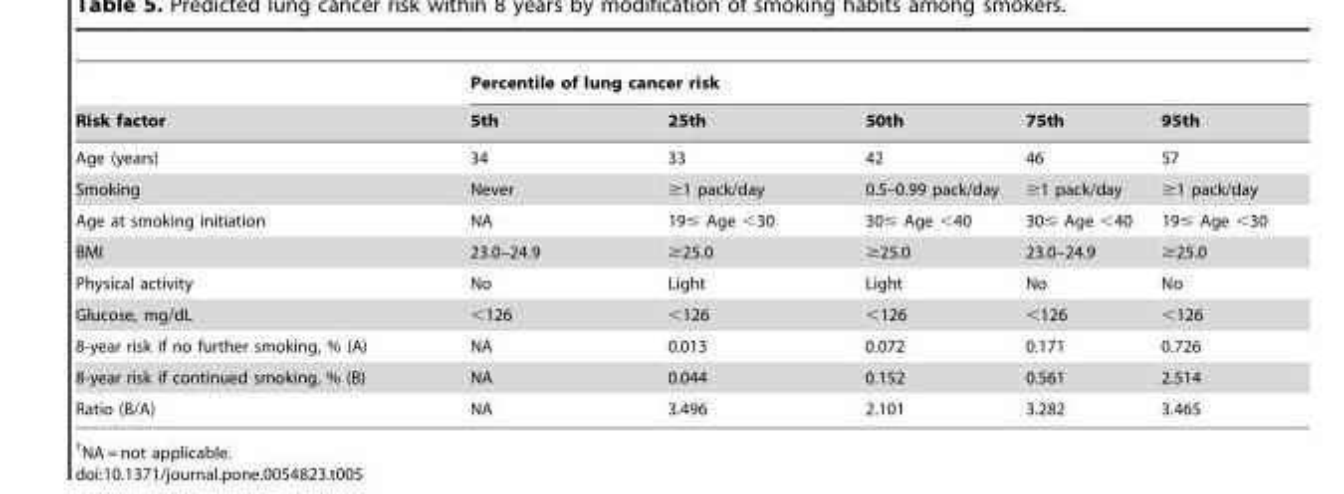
<table><thead><tr><td rowspan="2">Risk factor</td><td colspan="5">Percentile of lung cancer risk</td></tr><tr><td>5th</td><td>25th</td><td>50th</td><td>75th</td><td>95th</td></tr></thead><tbody><tr><td>Age (years)</td><td>34</td><td>33</td><td>42</td><td>46</td><td>57</td></tr><tr><td>Smoking</td><td>Never</td><td>≥1 pack/day</td><td>0.5–0.99 pack/day</td><td>≥1 pack/day</td><td>≥1 pack/day</td></tr><tr><td>Age at smoking initiation</td><td>NA</td><td>19≤ Age &lt;30</td><td>30≤ Age &lt;40</td><td>30≤ Age &lt;40</td><td>19≤ Age &lt;30</td></tr><tr><td>BMI</td><td>23.0–24.9</td><td>≥25.0</td><td>≥25.0</td><td>23.0–24.9</td><td>≥25.0</td></tr><tr><td>Physical activity</td><td>No</td><td>Light</td><td>Light</td><td>No</td><td>No</td></tr><tr><td>Glucose, mg/dL</td><td>&lt;126</td><td>&lt;126</td><td>&lt;126</td><td>&lt;126</td><td>&lt;126</td></tr><tr><td>8-year risk if no further smoking, % (A)</td><td>NA</td><td>0.013</td><td>0.072</td><td>0.171</td><td>0.726</td></tr><tr><td>8-year risk if continued smoking, % (B)</td><td>NA</td><td>0.044</td><td>0.152</td><td>0.561</td><td>2.514</td></tr><tr><td>Ratio (B/A)</td><td>NA</td><td>3.496</td><td>2.101</td><td>3.282</td><td>3.465</td></tr></tbody></table>